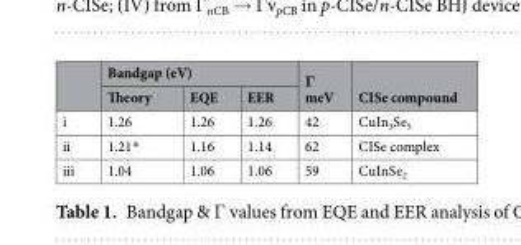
<table><thead><tr><td rowspan="2"></td><td colspan="3">Bandgap (eV)</td><td rowspan="2">Γ meV</td><td rowspan="2">CISe compound</td></tr><tr><td>Theory</td><td>EQE</td><td>EER</td></tr></thead><tbody><tr><td>i</td><td>1.26</td><td>1.26</td><td>1.26</td><td>42</td><td>CuIn<sub>3</sub>Se<sub>5</sub></td></tr><tr><td>ii</td><td>1.21*</td><td>1.16</td><td>1.14</td><td>62</td><td>CISe complex</td></tr><tr><td>iii</td><td>1.04</td><td>1.06</td><td>1.06</td><td>59</td><td>CuInSe<sub>2</sub></td></tr></tbody></table>